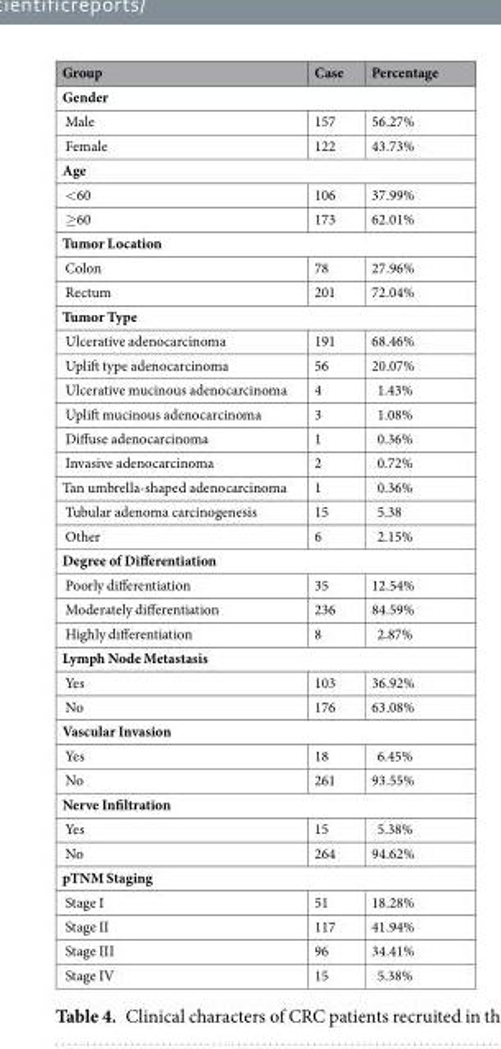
<table><thead><tr><td>Group</td><td>Case</td><td>Percentage</td></tr></thead><tbody><tr><td colspan="3">Gender</td></tr><tr><td>Male</td><td>157</td><td>56.27%</td></tr><tr><td>Female</td><td>122</td><td>43.73%</td></tr><tr><td colspan="3">Age</td></tr><tr><td>&lt;60</td><td>106</td><td>37.99%</td></tr><tr><td>≥60</td><td>173</td><td>62.01%</td></tr><tr><td colspan="3">Tumor Location</td></tr><tr><td>Colon</td><td>78</td><td>27.96%</td></tr><tr><td>Rectum</td><td>201</td><td>72.04%</td></tr><tr><td colspan="3">Tumor Type</td></tr><tr><td>Ulcerative adenocarcinoma</td><td>191</td><td>68.46%</td></tr><tr><td>Uplift type adenocarcinoma</td><td>56</td><td>20.07%</td></tr><tr><td>Ulcerative mucinous adenocarcinoma</td><td>4</td><td>1.43%</td></tr><tr><td>Uplift mucinous adenocarcinoma</td><td>3</td><td>1.08%</td></tr><tr><td>Diffuse adenocarcinoma</td><td>1</td><td>0.36%</td></tr><tr><td>Invasive adenocarcinoma</td><td>2</td><td>0.72%</td></tr><tr><td>Tan umbrella-shaped adenocarcinoma</td><td>1</td><td>0.36%</td></tr><tr><td>Tubular adenoma carcinogenesis</td><td>15</td><td>5.38</td></tr><tr><td>Other</td><td>6</td><td>2.15%</td></tr><tr><td colspan="3">Degree of Differentiation</td></tr><tr><td>Poorly differentiation</td><td>35</td><td>12.54%</td></tr><tr><td>Moderately differentiation</td><td>236</td><td>84.59%</td></tr><tr><td>Highly differentiation</td><td>8</td><td>2.87%</td></tr><tr><td colspan="3">Lymph Node Metastasis</td></tr><tr><td>Yes</td><td>103</td><td>36.92%</td></tr><tr><td>No</td><td>176</td><td>63.08%</td></tr><tr><td colspan="3">Vascular Invasion</td></tr><tr><td>Yes</td><td>18</td><td>6.45%</td></tr><tr><td>No</td><td>261</td><td>93.55%</td></tr><tr><td colspan="3">Nerve Infiltration</td></tr><tr><td>Yes</td><td>15</td><td>5.38%</td></tr><tr><td>No</td><td>264</td><td>94.62%</td></tr><tr><td colspan="3">pTNM Staging</td></tr><tr><td>Stage I</td><td>51</td><td>18.28%</td></tr><tr><td>Stage II</td><td>117</td><td>41.94%</td></tr><tr><td>Stage III</td><td>96</td><td>34.41%</td></tr><tr><td>Stage IV</td><td>15</td><td>5.38%</td></tr></tbody></table>